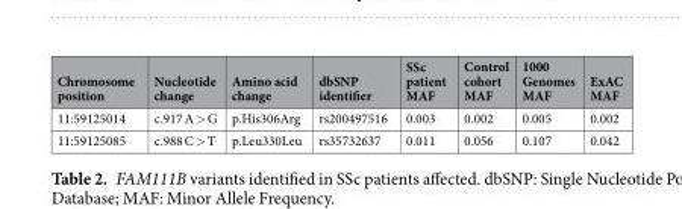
<table><thead><tr><td>Chromosome position</td><td>Nucleotide change</td><td>Amino acid change</td><td>dbSNP identifier</td><td>SSc patient MAF</td><td>Control cohort MAF</td><td>1000 Genomes MAF</td><td>ExAC MAF</td></tr></thead><tbody><tr><td>11:59125014</td><td>c.917 A &gt; G</td><td>p.His306Arg</td><td>rs200497516</td><td>0.003</td><td>0.002</td><td>0.005</td><td>0.002</td></tr><tr><td>11:59125085</td><td>c.988 C &gt; T</td><td>p.Leu330Leu</td><td>rs35732637</td><td>0.011</td><td>0.056</td><td>0.107</td><td>0.042</td></tr></tbody></table>